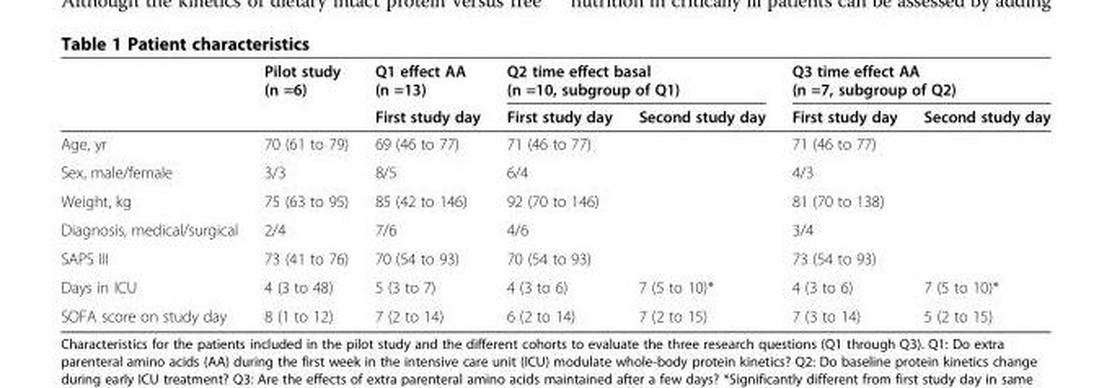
<table><thead><tr><td rowspan="2"></td><td rowspan="2">Pilot study (n =6)</td><td rowspan="2">Q1 effect AA (n =13) First study day</td><td colspan="2">Q2 time effect basal (n =10, subgroup of Q1)</td><td colspan="2">Q3 time effect AA (n =7, subgroup of Q2)</td></tr><tr><td>First study day</td><td>Second study day</td><td>First study day</td><td>Second study day</td></tr></thead><tbody><tr><td>Age, yr</td><td>70 (61 to 79)</td><td>69 (46 to 77)</td><td colspan="2">71 (46 to 77)</td><td colspan="2">71 (46 to 77)</td></tr><tr><td>Sex, male/female</td><td>3/3</td><td>8/5</td><td colspan="2">6/4</td><td colspan="2">4/3</td></tr><tr><td>Weight, kg</td><td>75 (63 to 95)</td><td>85 (42 to 146)</td><td colspan="2">92 (70 to 146)</td><td colspan="2">81 (70 to 138)</td></tr><tr><td>Diagnosis, medical/surgical</td><td>2/4</td><td>7/6</td><td colspan="2">4/6</td><td colspan="2">3/4</td></tr><tr><td>SAPS III</td><td>73 (41 to 76)</td><td>70 (54 to 93)</td><td colspan="2">70 (54 to 93)</td><td colspan="2">73 (54 to 93)</td></tr><tr><td>Days in ICU</td><td>4 (3 to 48)</td><td>5 (3 to 7)</td><td>4 (3 to 6)</td><td>7 (5 to 10)*</td><td>4 (3 to 6)</td><td>7 (5 to 10)*</td></tr><tr><td>SOFA score on study day</td><td>8 (1 to 12)</td><td>7 (2 to 14)</td><td>6 (2 to 14)</td><td>7 (2 to 15)</td><td>7 (3 to 14)</td><td>5 (2 to 15)</td></tr></tbody></table>